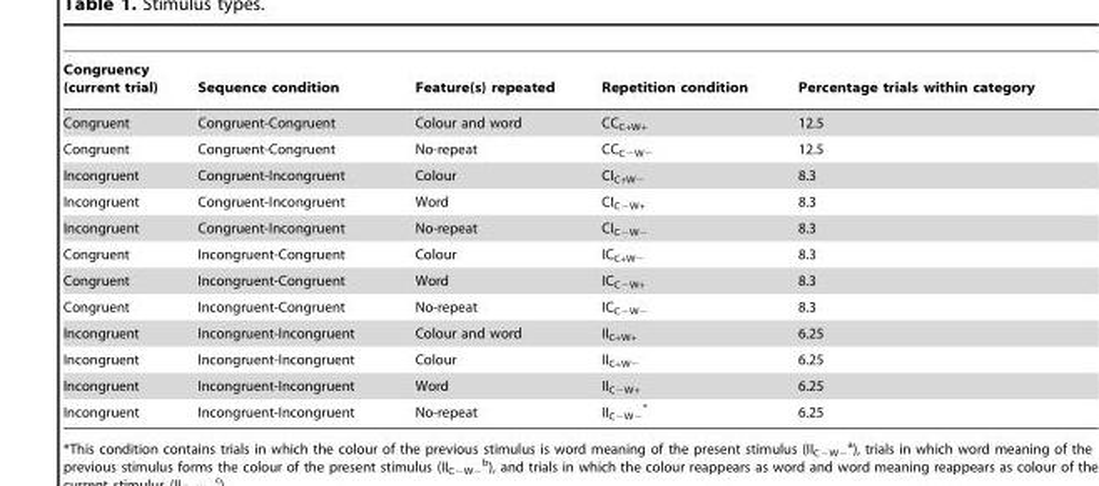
<table><thead><tr><td>Congruency (current trial)</td><td>Sequence condition</td><td>Feature(s) repeated</td><td>Repetition condition</td><td>Percentage trials within category</td></tr></thead><tbody><tr><td>Congruent</td><td>Congruent-Congruent</td><td>Colour and word</td><td>CC<sub>C+W+</sub></td><td>12.5</td></tr><tr><td>Congruent</td><td>Congruent-Congruent</td><td>No-repeat</td><td>CC<sub>C−W−</sub></td><td>12.5</td></tr><tr><td>Incongruent</td><td>Congruent-Incongruent</td><td>Colour</td><td>CI<sub>C+W−</sub></td><td>8.3</td></tr><tr><td>Incongruent</td><td>Congruent-Incongruent</td><td>Word</td><td>CI<sub>C−W+</sub></td><td>8.3</td></tr><tr><td>Incongruent</td><td>Congruent-Incongruent</td><td>No-repeat</td><td>CI<sub>C−W−</sub></td><td>8.3</td></tr><tr><td>Congruent</td><td>Incongruent-Congruent</td><td>Colour</td><td>IC<sub>C+W−</sub></td><td>8.3</td></tr><tr><td>Congruent</td><td>Incongruent-Congruent</td><td>Word</td><td>IC<sub>C−W+</sub></td><td>8.3</td></tr><tr><td>Congruent</td><td>Incongruent-Congruent</td><td>No-repeat</td><td>IC<sub>C−W−</sub></td><td>8.3</td></tr><tr><td>Incongruent</td><td>Incongruent-Incongruent</td><td>Colour and word</td><td>II<sub>C+W+</sub></td><td>6.25</td></tr><tr><td>Incongruent</td><td>Incongruent-Incongruent</td><td>Colour</td><td>II<sub>C+W−</sub></td><td>6.25</td></tr><tr><td>Incongruent</td><td>Incongruent-Incongruent</td><td>Word</td><td>II<sub>C−W+</sub></td><td>6.25</td></tr><tr><td>Incongruent</td><td>Incongruent-Incongruent</td><td>No-repeat</td><td>II<sub>C−W−</sub> *</td><td>6.25</td></tr></tbody></table>